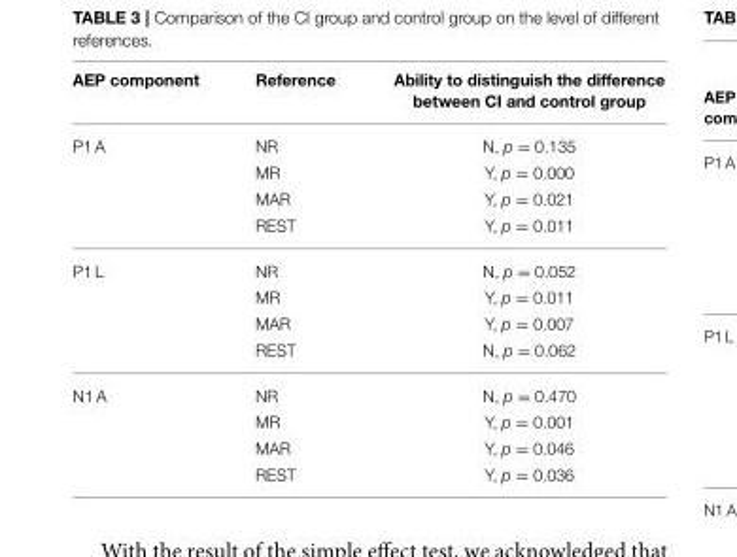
<table><thead><tr><td>AEP component</td><td>Reference</td><td>Ability to distinguish the difference between CI and control group</td></tr></thead><tbody><tr><td rowspan="4">P1 A</td><td>NR</td><td>N, p = 0.135</td></tr><tr><td>MR</td><td>Y, p = 0.000</td></tr><tr><td>MAR</td><td>Y, p = 0.021</td></tr><tr><td>REST</td><td>Y, p = 0.011</td></tr><tr><td rowspan="4">P1 L</td><td>NR</td><td>N, p = 0.052</td></tr><tr><td>MR</td><td>Y, p = 0.011</td></tr><tr><td>MAR</td><td>Y, p = 0.007</td></tr><tr><td>REST</td><td>N, p = 0.062</td></tr><tr><td rowspan="4">N1 A</td><td>NR</td><td>N, p = 0.470</td></tr><tr><td>MR</td><td>Y, p = 0.001</td></tr><tr><td>MAR</td><td>Y, p = 0.046</td></tr><tr><td>REST</td><td>Y, p = 0.036</td></tr></tbody></table>